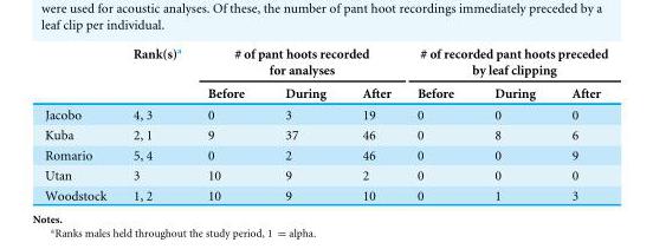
<table><thead><tr><td rowspan="2"></td><td rowspan="2">Rank(s)<sup>a</sup></td><td colspan="3"># of pant hoots recorded for analyses</td><td colspan="3"># of recorded pant hoots preceded by leaf clipping</td></tr><tr><td>Before</td><td>During</td><td>After</td><td>Before</td><td>During</td><td>After</td></tr></thead><tbody><tr><td>Jacobo</td><td>4, 3</td><td>0</td><td>3</td><td>19</td><td>0</td><td>0</td><td>0</td></tr><tr><td>Kuba</td><td>2, 1</td><td>9</td><td>37</td><td>46</td><td>0</td><td>8</td><td>6</td></tr><tr><td>Romario</td><td>5, 4</td><td>0</td><td>2</td><td>46</td><td>0</td><td>0</td><td>9</td></tr><tr><td>Utan</td><td>3</td><td>10</td><td>9</td><td>2</td><td>0</td><td>0</td><td>0</td></tr><tr><td>Woodstock</td><td>1, 2</td><td>10</td><td>9</td><td>10</td><td>0</td><td>1</td><td>3</td></tr></tbody></table>